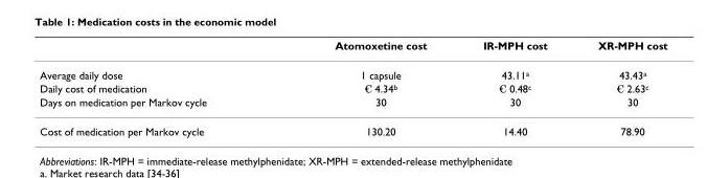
<table><thead><tr><td></td><td>Atomoxetine cost</td><td>IR-MPH cost</td><td>XR-MPH cost</td></tr></thead><tbody><tr><td>Average daily dose</td><td>1 capsule</td><td>43.11<sup>a</sup></td><td>43.43<sup>a</sup></td></tr><tr><td>Daily cost of medication</td><td>€ 4.34<sup>b</sup></td><td>€ 0.48<sup>c</sup></td><td>€ 2.63<sup>c</sup></td></tr><tr><td>Days on medication per Markov cycle</td><td>30</td><td>30</td><td>30</td></tr><tr><td>Cost of medication per Markov cycle</td><td>130.20</td><td>14.40</td><td>78.90</td></tr></tbody></table>